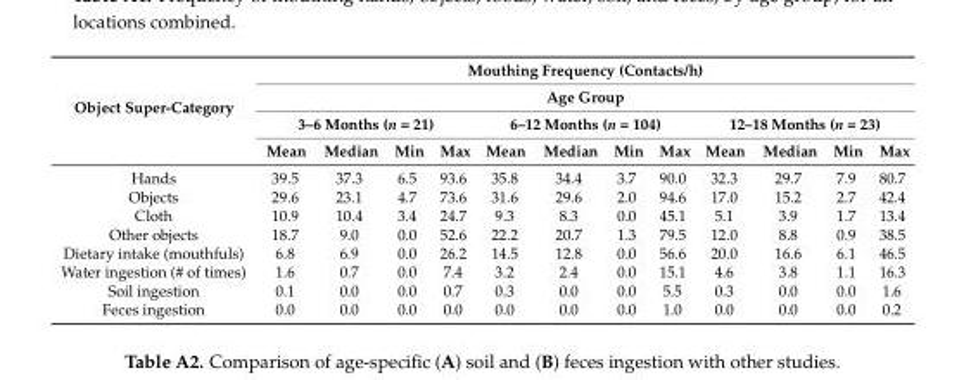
<table><thead><tr><td rowspan="4">Object Super-Category</td><td rowspan="2" colspan="12">Mouthing Frequency (Contacts/h) Age Group</td></tr><tr></tr><tr><td colspan="4">3–6 Months (n = 21)</td><td colspan="4">6–12 Months (n = 104)</td><td colspan="4">12–18 Months (n = 23)</td></tr><tr><td>Mean</td><td>Median</td><td>Min</td><td>Max</td><td>Mean</td><td>Median</td><td>Min</td><td>Max</td><td>Mean</td><td>Median</td><td>Min</td><td>Max</td></tr></thead><tbody><tr><td>Hands</td><td>39.5</td><td>37.3</td><td>6.5</td><td>93.6</td><td>35.8</td><td>34.4</td><td>3.7</td><td>90.0</td><td>32.3</td><td>29.7</td><td>7.9</td><td>80.7</td></tr><tr><td>Objects</td><td>29.6</td><td>23.1</td><td>4.7</td><td>73.6</td><td>31.6</td><td>29.6</td><td>2.0</td><td>94.6</td><td>17.0</td><td>15.2</td><td>2.7</td><td>42.4</td></tr><tr><td>Cloth</td><td>10.9</td><td>10.4</td><td>3.4</td><td>24.7</td><td>9.3</td><td>8.3</td><td>0.0</td><td>45.1</td><td>5.1</td><td>3.9</td><td>1.7</td><td>13.4</td></tr><tr><td>Other objects</td><td>18.7</td><td>9.0</td><td>0.0</td><td>52.6</td><td>22.2</td><td>20.7</td><td>1.3</td><td>79.5</td><td>12.0</td><td>8.8</td><td>0.9</td><td>38.5</td></tr><tr><td>Dietary intake (mouthfuls)</td><td>6.8</td><td>6.9</td><td>0.0</td><td>26.2</td><td>14.5</td><td>12.8</td><td>0.0</td><td>56.6</td><td>20.0</td><td>16.6</td><td>6.1</td><td>46.5</td></tr><tr><td>Water ingestion (# of times)</td><td>1.6</td><td>0.7</td><td>0.0</td><td>7.4</td><td>3.2</td><td>2.4</td><td>0.0</td><td>15.1</td><td>4.6</td><td>3.8</td><td>1.1</td><td>16.3</td></tr><tr><td>Soil ingestion</td><td>0.1</td><td>0.0</td><td>0.0</td><td>0.7</td><td>0.3</td><td>0.0</td><td>0.0</td><td>5.5</td><td>0.3</td><td>0.0</td><td>0.0</td><td>1.6</td></tr><tr><td>Feces ingestion</td><td>0.0</td><td>0.0</td><td>0.0</td><td>0.0</td><td>0.0</td><td>0.0</td><td>0.0</td><td>1.0</td><td>0.0</td><td>0.0</td><td>0.0</td><td>0.2</td></tr></tbody></table>